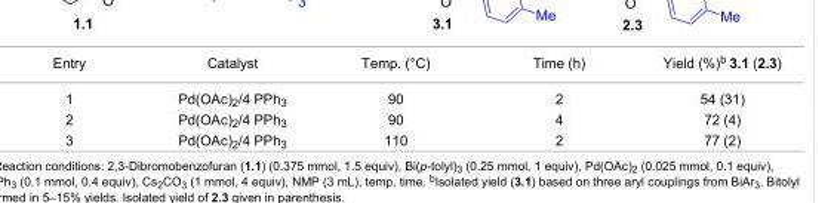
<table><tbody><tr><td>Entry</td><td>Catalyst</td><td>Temp. (°C)</td><td>Time (h)</td><td>Yield (%)<sup>b</sup> 3.1 (2.3)</td></tr><tr><td>1</td><td>Pd(OAc)<sub>2</sub>/4 PPh<sub>3</sub></td><td>90</td><td>2</td><td>54 (31)</td></tr><tr><td>2</td><td>Pd(OAc)<sub>2</sub>/4 PPh<sub>3</sub></td><td>90</td><td>4</td><td>72 (4)</td></tr><tr><td>3</td><td>Pd(OAc)<sub>2</sub>/4 PPh<sub>3</sub></td><td>110</td><td>2</td><td>77 (2)</td></tr></tbody></table>